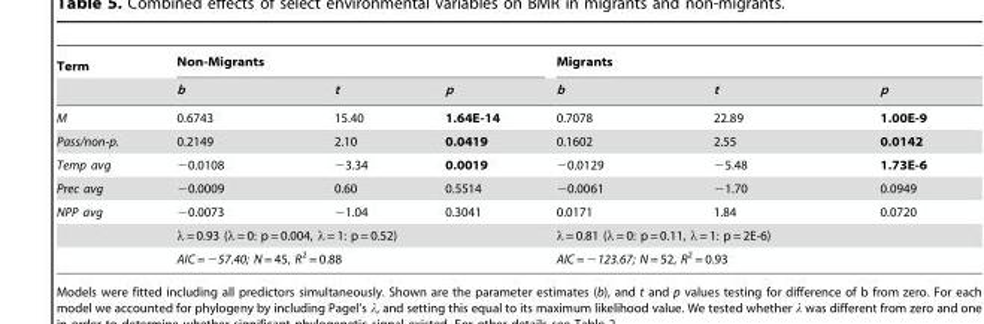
<table><thead><tr><td rowspan="2">Term</td><td colspan="3">Non-Migrants</td><td colspan="3">Migrants</td></tr><tr><td>b</td><td>t</td><td>p</td><td>b</td><td>t</td><td>p</td></tr></thead><tbody><tr><td>M</td><td>0.6743</td><td>15.40</td><td>1.64E-14</td><td>0.7078</td><td>22.89</td><td>1.00E-9</td></tr><tr><td>Pass/non-p.</td><td>0.2149</td><td>2.10</td><td>0.0419</td><td>0.1602</td><td>2.55</td><td>0.0142</td></tr><tr><td>Temp avg</td><td>−0.0108</td><td>−3.34</td><td>0.0019</td><td>−0.0129</td><td>−5.48</td><td>1.73E-6</td></tr><tr><td>Prec avg</td><td>−0.0009</td><td>0.60</td><td>0.5514</td><td>−0.0061</td><td>−1.70</td><td>0.0949</td></tr><tr><td rowspan="3">NPP avg</td><td>−0.0073</td><td>−1.04</td><td>0.3041</td><td>0.0171</td><td>1.84</td><td>0.0720</td></tr><tr><td colspan="3">λ = 0.93 (λ = 0: p = 0.004, λ = 1: p = 0.52)</td><td colspan="3">λ = 0.81 (λ = 0: p = 0.11, λ = 1: p = 2E-6)</td></tr><tr><td colspan="3">AIC = −57.40; N = 45, R<sup>2</sup> = 0.88</td><td colspan="3">AIC = −123.67; N = 52, R<sup>2</sup> = 0.93</td></tr></tbody></table>